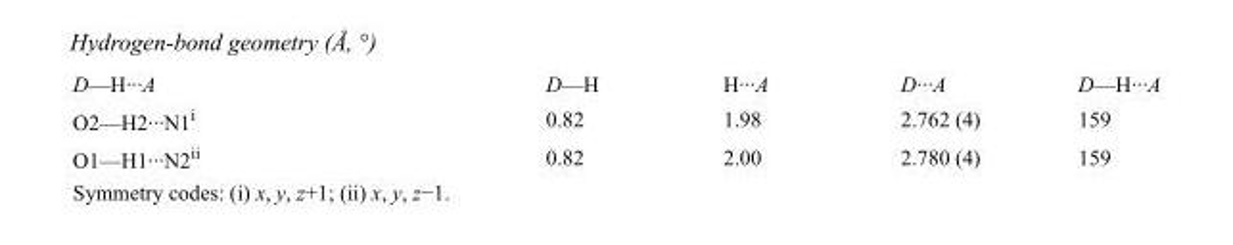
<table><tbody><tr><td>D—H···A</td><td>D—H</td><td>H···A</td><td>D···A</td><td>D—H···A</td></tr><tr><td>O2—H2···N1<sup>i</sup></td><td>0.82</td><td>1.98</td><td>2.762 (4)</td><td>159</td></tr><tr><td>O1—H1···N2<sup>ii</sup></td><td>0.82</td><td>2.00</td><td>2.780 (4)</td><td>159</td></tr></tbody></table>